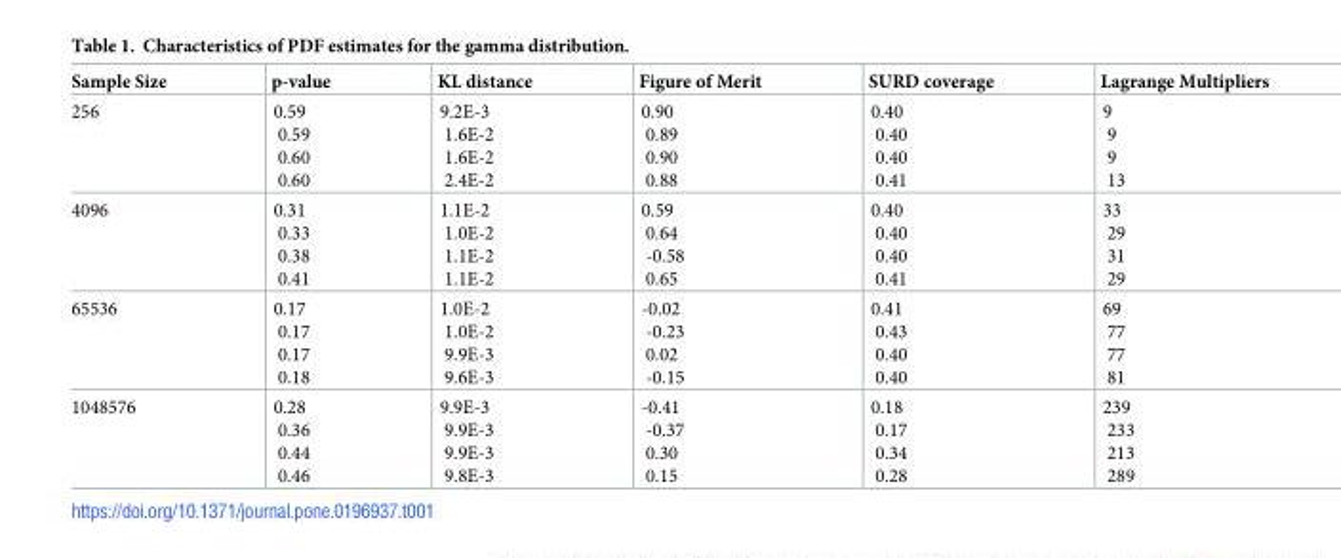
<table><thead><tr><td>Sample Size</td><td>p-value</td><td>KL distance</td><td>Figure of Merit</td><td>SURD coverage</td><td>Lagrange Multipliers</td></tr></thead><tbody><tr><td>256</td><td>0.59 0.59 0.60 0.60</td><td>9.2E-3 1.6E-2 1.6E-2 2.4E-2</td><td>0.90 0.89 0.90 0.88</td><td>0.40 0.40 0.40 0.41</td><td>9 9 9 13</td></tr><tr><td>4096</td><td>0.31 0.33 0.38 0.41</td><td>1.1E-2 1.0E-2 1.1E-2 1.1E-2</td><td>0.59 0.64 -0.58 0.65</td><td>0.40 0.40 0.40 0.41</td><td>33 29 31 29</td></tr><tr><td>65536</td><td>0.17 0.17 0.17 0.18</td><td>1.0E-2 1.0E-2 9.9E-3 9.6E-3</td><td>-0.02 -0.23 0.02 -0.15</td><td>0.41 0.43 0.40 0.40</td><td>69 77 77 81</td></tr><tr><td>1048576</td><td>0.28 0.36 0.44 0.46</td><td>9.9E-3 9.9E-3 9.9E-3 9.8E-3</td><td>-0.41 -0.37 0.30 0.15</td><td>0.18 0.17 0.34 0.28</td><td>239 233 213 289</td></tr></tbody></table>